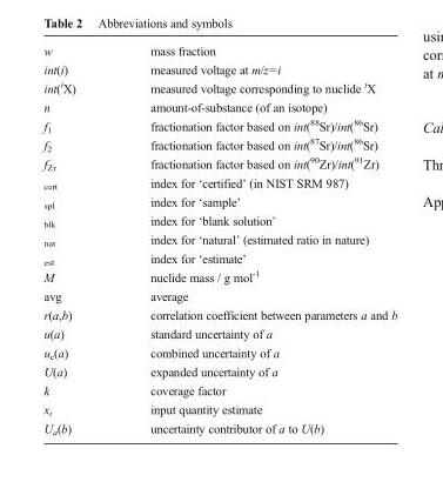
<table><tbody><tr><td>w</td><td>mass fraction</td></tr><tr><td>int(i)</td><td>measured voltage at m/z=i</td></tr><tr><td>int(<sup>i</sup>X)</td><td>measured voltage corresponding to nuclide <sup>i</sup>X</td></tr><tr><td>n</td><td>amount-of-substance (of an isotope)</td></tr><tr><td>f<sub>1</sub></td><td>fractionation factor based on int(<sup>88</sup>Sr)/int(<sup>86</sup>Sr)</td></tr><tr><td>f<sub>2</sub></td><td>fractionation factor based on int(<sup>87</sup>Sr)/int(<sup>86</sup>Sr)</td></tr><tr><td>f<sub>Zr</sub></td><td>fractionation factor based on int(<sup>90</sup>Zr)/int(<sup>91</sup>Zr)</td></tr><tr><td><sub>cert</sub></td><td>index for ‘certified’ (in NIST SRM 987)</td></tr><tr><td><sub>spl</sub></td><td>index for ‘sample’</td></tr><tr><td><sub>blk</sub></td><td>index for ‘blank solution’</td></tr><tr><td><sub>nat</sub></td><td>index for ‘natural’ (estimated ratio in nature)</td></tr><tr><td><sub>est</sub></td><td>index for ‘estimate’</td></tr><tr><td>M</td><td>nuclide mass / g mol<sup>-1</sup></td></tr><tr><td>avg</td><td>average</td></tr><tr><td>r(a,b)</td><td>correlation coefficient between parameters a and b</td></tr><tr><td>u(a)</td><td>standard uncertainty of a</td></tr><tr><td>u<sub>c</sub>(a)</td><td>combined uncertainty of a</td></tr><tr><td>U(a)</td><td>expanded uncertainty of a</td></tr><tr><td>k</td><td>coverage factor</td></tr><tr><td>x<sub>i</sub></td><td>input quantity estimate</td></tr><tr><td>U<sub>a</sub>(b)</td><td>uncertainty contributor of a to U(b)</td></tr></tbody></table>